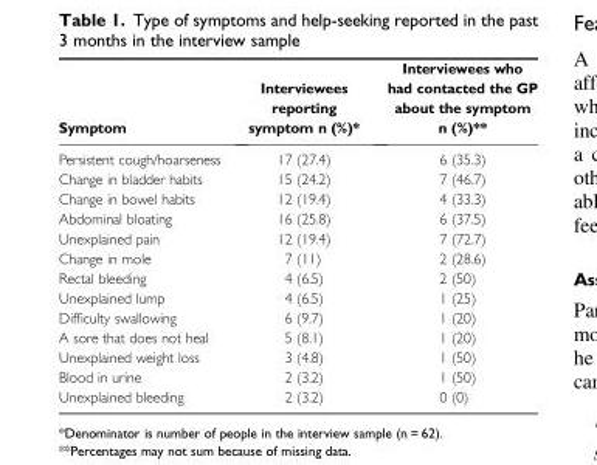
<table><thead><tr><td>Symptom</td><td>Interviewees reporting symptom n (%)*</td><td>Interviewees who had contacted the GP about the symptom n (%)**</td></tr></thead><tbody><tr><td>Persistent cough/hoarseness</td><td>17 (27.4)</td><td>6 (35.3)</td></tr><tr><td>Change in bladder habits</td><td>15 (24.2)</td><td>7 (46.7)</td></tr><tr><td>Change in bowel habits</td><td>12 (19.4)</td><td>4 (33.3)</td></tr><tr><td>Abdominal bloating</td><td>16 (25.8)</td><td>6 (37.5)</td></tr><tr><td>Unexplained pain</td><td>12 (19.4)</td><td>7 (72.7)</td></tr><tr><td>Change in mole</td><td>7 (11)</td><td>2 (28.6)</td></tr><tr><td>Rectal bleeding</td><td>4 (6.5)</td><td>2 (50)</td></tr><tr><td>Unexplained lump</td><td>4 (6.5)</td><td>1 (25)</td></tr><tr><td>Difficulty swallowing</td><td>6 (9.7)</td><td>1 (20)</td></tr><tr><td>A sore that does not heal</td><td>5 (8.1)</td><td>1 (20)</td></tr><tr><td>Unexplained weight loss</td><td>3 (4.8)</td><td>1 (50)</td></tr><tr><td>Blood in urine</td><td>2 (3.2)</td><td>1 (50)</td></tr><tr><td>Unexplained bleeding</td><td>2 (3.2)</td><td>0 (0)</td></tr></tbody></table>